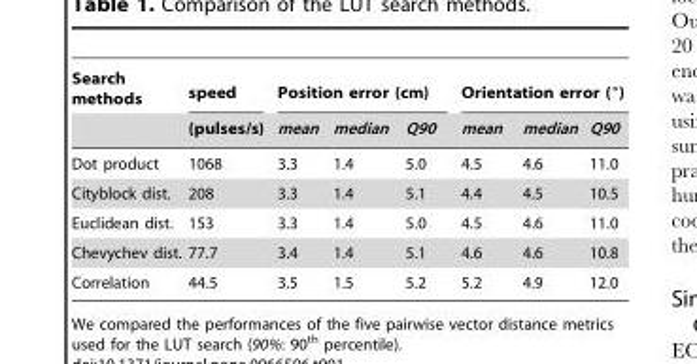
<table><thead><tr><td rowspan="2">Search methods</td><td rowspan="2">speed (pulses/s)</td><td colspan="3">Position error (cm)</td><td colspan="3">Orientation error (°)</td></tr><tr><td>mean</td><td>median</td><td>Q90</td><td>mean</td><td>median</td><td>Q90</td></tr></thead><tbody><tr><td>Dot product</td><td>1068</td><td>3.3</td><td>1.4</td><td>5.0</td><td>4.5</td><td>4.6</td><td>11.0</td></tr><tr><td>Cityblock dist.</td><td>208</td><td>3.3</td><td>1.4</td><td>5.1</td><td>4.4</td><td>4.5</td><td>10.5</td></tr><tr><td>Euclidean dist.</td><td>153</td><td>3.3</td><td>1.4</td><td>5.0</td><td>4.5</td><td>4.6</td><td>11.0</td></tr><tr><td>Chevychev dist.</td><td>77.7</td><td>3.4</td><td>1.4</td><td>5.1</td><td>4.6</td><td>4.6</td><td>10.8</td></tr><tr><td>Correlation</td><td>44.5</td><td>3.5</td><td>1.5</td><td>5.2</td><td>5.2</td><td>4.9</td><td>12.0</td></tr></tbody></table>